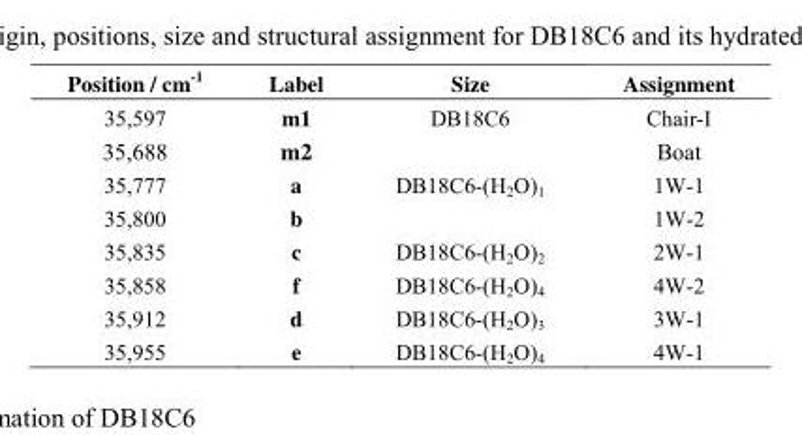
<table><thead><tr><td>Position / cm<sup>-1</sup></td><td>Label</td><td>Size</td><td>Assignment</td></tr></thead><tbody><tr><td>35,597</td><td>m1</td><td>DB18C6</td><td>Chair-I</td></tr><tr><td>35,688</td><td>m2</td><td></td><td>Boat</td></tr><tr><td>35,777</td><td>a</td><td>DB18C6-(H<sub>2</sub>O)<sub>1</sub></td><td>1W-1</td></tr><tr><td>35,800</td><td>b</td><td></td><td>1W-2</td></tr><tr><td>35,835</td><td>c</td><td>DB18C6-(H<sub>2</sub>O)<sub>2</sub></td><td>2W-1</td></tr><tr><td>35,858</td><td>f</td><td>DB18C6-(H<sub>2</sub>O)<sub>4</sub></td><td>4W-2</td></tr><tr><td>35,912</td><td>d</td><td>DB18C6-(H<sub>2</sub>O)<sub>3</sub></td><td>3W-1</td></tr><tr><td>35,955</td><td>e</td><td>DB18C6-(H<sub>2</sub>O)<sub>4</sub></td><td>4W-1</td></tr></tbody></table>